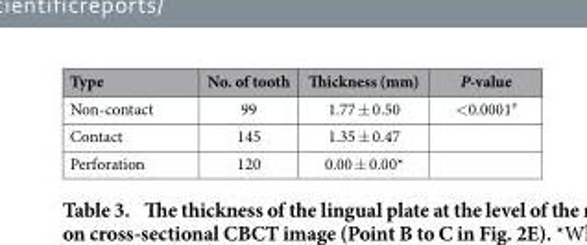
<table><thead><tr><td>Type</td><td>No. of tooth</td><td>Thickness (mm)</td><td>P-value</td></tr></thead><tbody><tr><td>Non-contact</td><td>99</td><td>1.77 ± 0.50</td><td>&lt; 0.0001<sup>#</sup></td></tr><tr><td>Contact</td><td>145</td><td>1.35 ± 0.47</td><td></td></tr><tr><td>Perforation</td><td>120</td><td>0.00 ± 0.00*</td><td></td></tr></tbody></table>